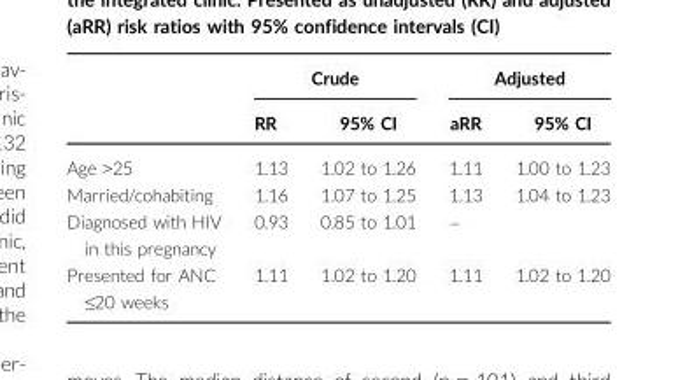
<table><thead><tr><td rowspan="2"></td><td colspan="2">Crude</td><td colspan="2">Adjusted</td></tr><tr><td>RR</td><td>95% CI</td><td>aRR</td><td>95% CI</td></tr></thead><tbody><tr><td>Age &gt;25</td><td>1.13</td><td>1.02 to 1.26</td><td>1.11</td><td>1.00 to 1.23</td></tr><tr><td>Married/cohabiting</td><td>1.16</td><td>1.07 to 1.25</td><td>1.13</td><td>1.04 to 1.23</td></tr><tr><td>Diagnosed with HIV in this pregnancy</td><td>0.93</td><td>0.85 to 1.01</td><td>–</td><td></td></tr><tr><td>Presented for ANC ≤20 weeks</td><td>1.11</td><td>1.02 to 1.20</td><td>1.11</td><td>1.02 to 1.20</td></tr></tbody></table>